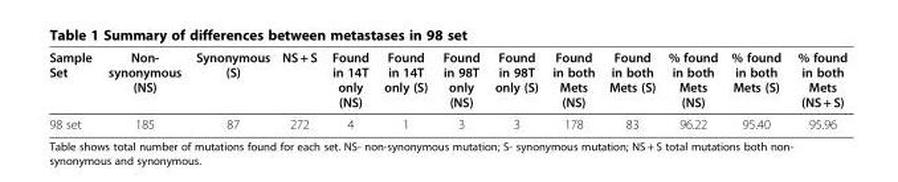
<table><thead><tr><td>Sample Set</td><td>Non- synonymous (NS)</td><td>Synonymous (S)</td><td>NS + S</td><td>Found in 14T only (NS)</td><td>Found in 14T only (S)</td><td>Found in 98T only (NS)</td><td>Found in 98T only (S)</td><td>Found in both Mets (NS)</td><td>Found in both Mets (S)</td><td>% found in both Mets (NS)</td><td>% found in both Mets (S)</td><td>% found in both Mets (NS + S)</td></tr></thead><tbody><tr><td>98 set</td><td>185</td><td>87</td><td>272</td><td>4</td><td>1</td><td>3</td><td>3</td><td>178</td><td>83</td><td>96.22</td><td>95.40</td><td>95.96</td></tr></tbody></table>